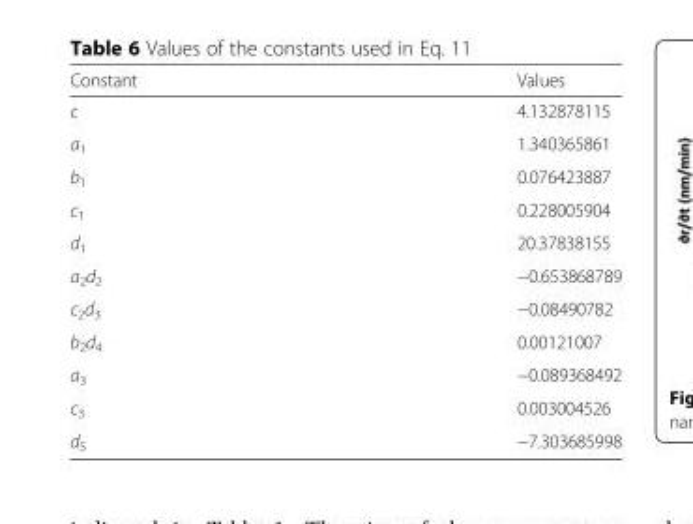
<table><thead><tr><td>Constant</td><td>Values</td></tr></thead><tbody><tr><td>c</td><td>4.132878115</td></tr><tr><td>a<sub>1</sub></td><td>1.340365861</td></tr><tr><td>b<sub>1</sub></td><td>0.076423887</td></tr><tr><td>c<sub>1</sub></td><td>0.228005904</td></tr><tr><td>d<sub>1</sub></td><td>20.37838155</td></tr><tr><td>a<sub>2</sub>d<sub>2</sub></td><td>−0.653868789</td></tr><tr><td>c<sub>2</sub>d<sub>3</sub></td><td>−0.08490782</td></tr><tr><td>b<sub>2</sub>d<sub>4</sub></td><td>0.00121007</td></tr><tr><td>a<sub>3</sub></td><td>−0.089368492</td></tr><tr><td>c<sub>3</sub></td><td>0.003004526</td></tr><tr><td>d<sub>5</sub></td><td>−7.303685998</td></tr></tbody></table>